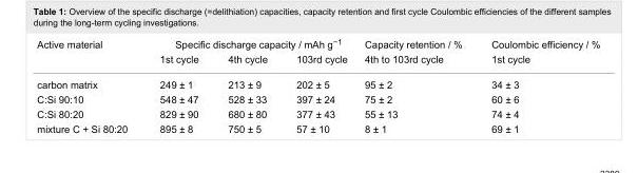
<table><tbody><tr><td rowspan="2">Active material</td><td colspan="3">Specific discharge capacity / mAh g<sup>−1</sup></td><td>Capacity retention / %</td><td>Coulombic efficiency / %</td></tr><tr><td>1st cycle</td><td>4th cycle</td><td>103rd cycle</td><td>4th to 103rd cycle</td><td>1st cycle</td></tr><tr><td>carbon matrix</td><td>249 ± 1</td><td>213 ± 9</td><td>202 ± 5</td><td>95 ± 2</td><td>34 ± 3</td></tr><tr><td>C:Si 90:10</td><td>548 ± 47</td><td>528 ± 33</td><td>397 ± 24</td><td>75 ± 2</td><td>60 ± 6</td></tr><tr><td>C:Si 80:20</td><td>829 ± 90</td><td>680 ± 80</td><td>377 ± 43</td><td>55 ± 13</td><td>74 ± 4</td></tr><tr><td>mixture C + Si 80:20</td><td>895 ± 8</td><td>750 ± 5</td><td>57 ± 10</td><td>8 ± 1</td><td>69 ± 1</td></tr></tbody></table>